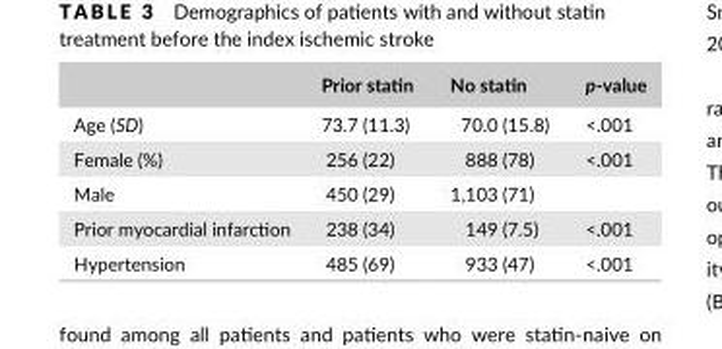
<table><thead><tr><td></td><td>Prior statin</td><td>No statin</td><td>p- value</td></tr></thead><tbody><tr><td>Age (SD)</td><td>73.7 (11.3)</td><td>70.0 (15.8)</td><td>&lt;.001</td></tr><tr><td>Female (%)</td><td>256 (22)</td><td>888 (78)</td><td>&lt;.001</td></tr><tr><td>Male</td><td>450 (29)</td><td>1,103 (71)</td><td></td></tr><tr><td>Prior myocardial infarction</td><td>238 (34)</td><td>149 (7.5)</td><td>&lt;.001</td></tr><tr><td>Hypertension</td><td>485 (69)</td><td>933 (47)</td><td>&lt;.001</td></tr></tbody></table>